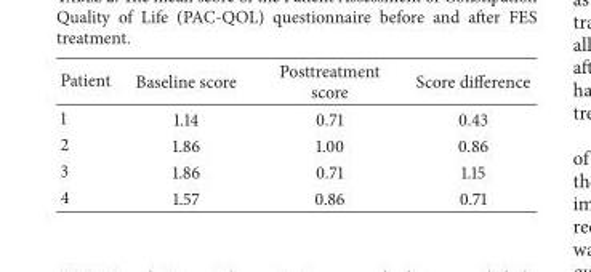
<table><thead><tr><td>Patient</td><td>Baseline score</td><td>Posttreatment score</td><td>Score difference</td></tr></thead><tbody><tr><td>1</td><td>1.14</td><td>0.71</td><td>0.43</td></tr><tr><td>2</td><td>1.86</td><td>1.00</td><td>0.86</td></tr><tr><td>3</td><td>1.86</td><td>0.71</td><td>1.15</td></tr><tr><td>4</td><td>1.57</td><td>0.86</td><td>0.71</td></tr></tbody></table>